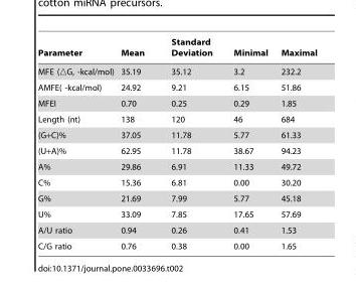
<table><thead><tr><td>Parameter</td><td>Mean</td><td>Standard Deviation</td><td>Minimal</td><td>Maximal</td></tr></thead><tbody><tr><td>MFE (▵G, -kcal/mol)</td><td>35.19</td><td>35.12</td><td>3.2</td><td>232.2</td></tr><tr><td>AMFE( -kcal/mol)</td><td>24.92</td><td>9.21</td><td>6.15</td><td>51.86</td></tr><tr><td>MFEI</td><td>0.70</td><td>0.25</td><td>0.29</td><td>1.85</td></tr><tr><td>Length (nt)</td><td>138</td><td>120</td><td>46</td><td>684</td></tr><tr><td>(G+C)%</td><td>37.05</td><td>11.78</td><td>5.77</td><td>61.33</td></tr><tr><td>(U+A)%</td><td>62.95</td><td>11.78</td><td>38.67</td><td>94.23</td></tr><tr><td>A%</td><td>29.86</td><td>6.91</td><td>11.33</td><td>49.72</td></tr><tr><td>C%</td><td>15.36</td><td>6.81</td><td>0.00</td><td>30.20</td></tr><tr><td>G%</td><td>21.69</td><td>7.99</td><td>5.77</td><td>45.18</td></tr><tr><td>U%</td><td>33.09</td><td>7.85</td><td>17.65</td><td>57.69</td></tr><tr><td>A/U ratio</td><td>0.94</td><td>0.26</td><td>0.41</td><td>1.53</td></tr><tr><td>C/G ratio</td><td>0.76</td><td>0.38</td><td>0.00</td><td>1.65</td></tr></tbody></table>